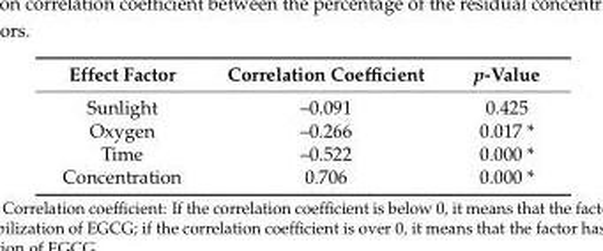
<table><thead><tr><td>Effect Factor</td><td>Correlation Coefficient</td><td>p-Value</td></tr></thead><tbody><tr><td>Sunlight</td><td>–0.091</td><td>0.425</td></tr><tr><td>Oxygen</td><td>–0.266</td><td>0.017 *</td></tr><tr><td>Time</td><td>–0.522</td><td>0.000 *</td></tr><tr><td>Concentration</td><td>0.706</td><td>0.000 *</td></tr></tbody></table>